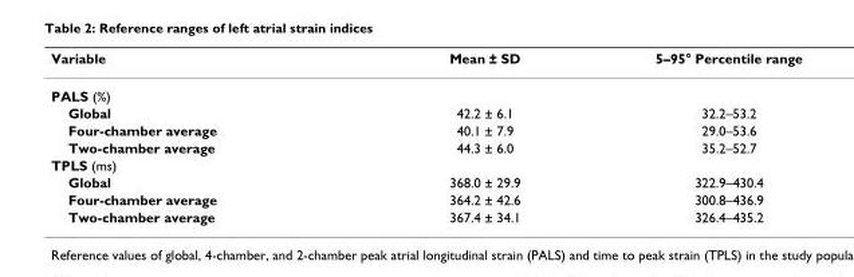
<table><thead><tr><td>Variable</td><td>Mean ± SD</td><td>5–95° Percentile range</td></tr></thead><tbody><tr><td colspan="3">PALS (%)</td></tr><tr><td>Global</td><td>42.2 ± 6.1</td><td>32.2–53.2</td></tr><tr><td>Four-chamber average</td><td>40.1 ± 7.9</td><td>29.0–53.6</td></tr><tr><td>Two-chamber average</td><td>44.3 ± 6.0</td><td>35.2–52.7</td></tr><tr><td colspan="3">TPLS (ms)</td></tr><tr><td>Global</td><td>368.0 ± 29.9</td><td>322.9–430.4</td></tr><tr><td>Four-chamber average</td><td>364.2 ± 42.6</td><td>300.8–436.9</td></tr><tr><td>Two-chamber average</td><td>367.4 ± 34.1</td><td>326.4–435.2</td></tr></tbody></table>